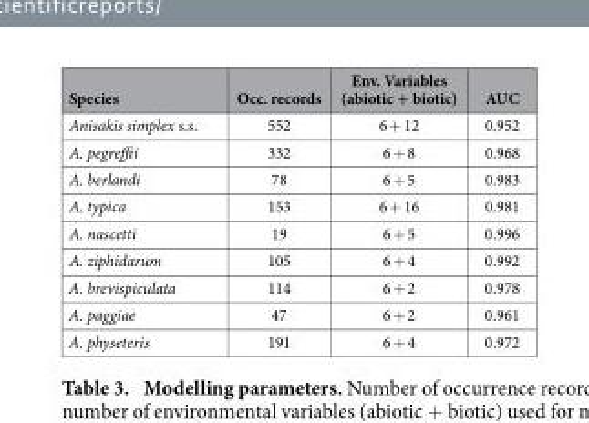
<table><thead><tr><td>Species</td><td>Occ. records</td><td>Env. Variables (abiotic + biotic)</td><td>AUC</td></tr></thead><tbody><tr><td>Anisakis simplex s.s.</td><td>552</td><td>6 + 12</td><td>0.952</td></tr><tr><td>A. pegreffii</td><td>332</td><td>6 + 8</td><td>0.968</td></tr><tr><td>A. berlandi</td><td>78</td><td>6 + 5</td><td>0.983</td></tr><tr><td>A. typica</td><td>153</td><td>6 + 16</td><td>0.981</td></tr><tr><td>A. nascetti</td><td>19</td><td>6 + 5</td><td>0.996</td></tr><tr><td>A. ziphidarum</td><td>105</td><td>6 + 4</td><td>0.992</td></tr><tr><td>A. brevispiculata</td><td>114</td><td>6 + 2</td><td>0.978</td></tr><tr><td>A. paggiae</td><td>47</td><td>6 + 2</td><td>0.961</td></tr><tr><td>A. physeteris</td><td>191</td><td>6 + 4</td><td>0.972</td></tr></tbody></table>